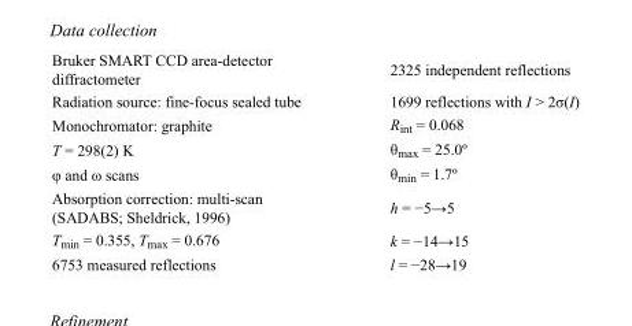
<table><tbody><tr><td>Bruker SMART CCD area-detector diffractometer</td><td>2325 independent reflections</td></tr><tr><td>Radiation source: fine-focus sealed tube</td><td>1699 reflections with I &gt; 2σ(I)</td></tr><tr><td>Monochromator: graphite</td><td>R<sub>int</sub> = 0.068</td></tr><tr><td>T = 298(2) K</td><td>θ<sub>max</sub> = 25.0º</td></tr><tr><td>φ and ω scans</td><td>θ<sub>min</sub> = 1.7º</td></tr><tr><td>Absorption correction: multi-scan (SADABS; Sheldrick, 1996)</td><td>h = −5→5</td></tr><tr><td>T<sub>min</sub> = 0.355, T<sub>max</sub> = 0.676</td><td>k = −14→15</td></tr><tr><td>6753 measured reflections</td><td>l = −28→19</td></tr></tbody></table>